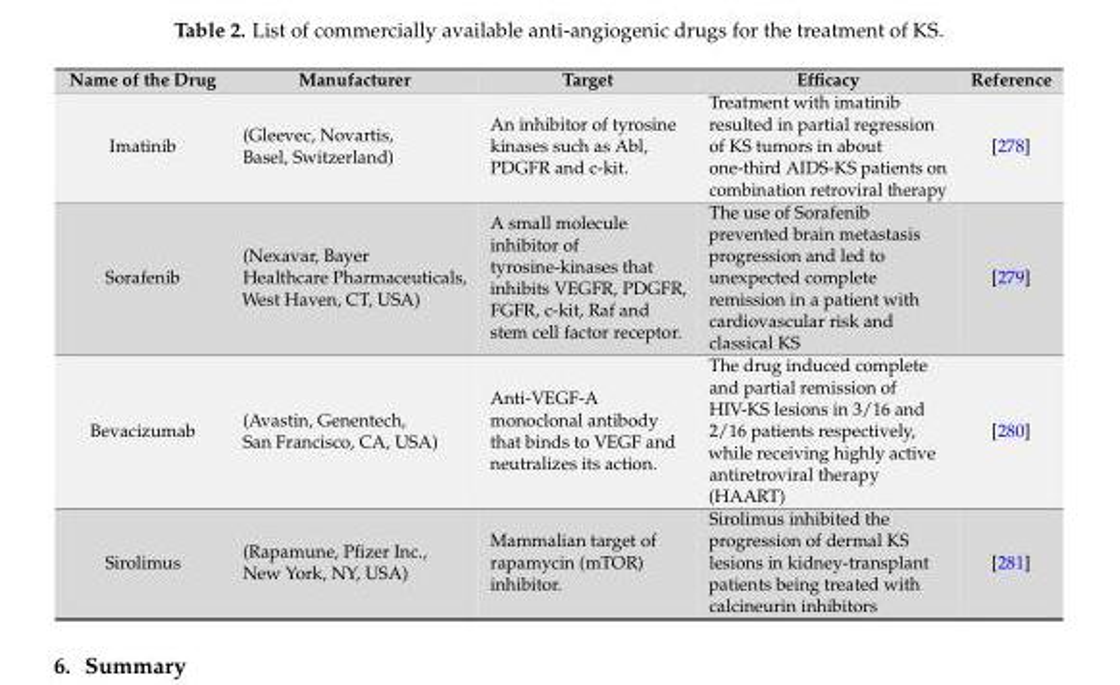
<table><thead><tr><td>Name of the Drug</td><td>Manufacturer</td><td>Target</td><td>Efficacy</td><td>Reference</td></tr></thead><tbody><tr><td>Imatinib</td><td>(Gleevec, Novartis, Basel, Switzerland)</td><td>An inhibitor of tyrosine kinases such as Abl, PDGFR and c-kit.</td><td>Treatment with imatinib resulted in partial regression of KS tumors in about one-third AIDS-KS patients on combination retroviral therapy</td><td>[278]</td></tr><tr><td>Sorafenib</td><td>(Nexavar, Bayer Healthcare Pharmaceuticals, West Haven, CT, USA)</td><td>A small molecule inhibitor of tyrosine-kinases that inhibits VEGFR, PDGFR, FGFR, c-kit, Raf and stem cell factor receptor.</td><td>The use of Sorafenib prevented brain metastasis progression and led to unexpected complete remission in a patient with cardiovascular risk and classical KS</td><td>[279]</td></tr><tr><td>Bevacizumab</td><td>(Avastin, Genentech, San Francisco, CA, USA)</td><td>Anti-VEGF-A monoclonal antibody that binds to VEGF and neutralizes its action.</td><td>The drug induced complete and partial remission of HIV-KS lesions in 3/16 and 2/16 patients respectively, while receiving highly active antiretroviral therapy (HAART)</td><td>[280]</td></tr><tr><td>Sirolimus</td><td>(Rapamune, Pfizer Inc., New York, NY, USA)</td><td>Mammalian target of rapamycin (mTOR) inhibitor.</td><td>Sirolimus inhibited the progression of dermal KS lesions in kidney-transplant patients being treated with calcineurin inhibitors</td><td>[281]</td></tr></tbody></table>